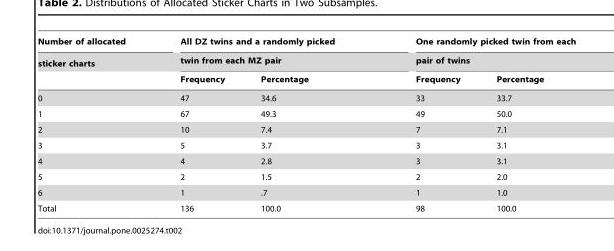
<table><thead><tr><td rowspan="3">Number of allocated sticker charts</td><td rowspan="2" colspan="2">All DZ twins and a randomly picked twin from each MZ pair</td><td rowspan="2" colspan="2">One randomly picked twin from each pair of twins</td></tr><tr></tr><tr><td>Frequency</td><td>Percentage</td><td>Frequency</td><td>Percentage</td></tr></thead><tbody><tr><td>0</td><td>47</td><td>34.6</td><td>33</td><td>33.7</td></tr><tr><td>1</td><td>67</td><td>49.3</td><td>49</td><td>50.0</td></tr><tr><td>2</td><td>10</td><td>7.4</td><td>7</td><td>7.1</td></tr><tr><td>3</td><td>5</td><td>3.7</td><td>3</td><td>3.1</td></tr><tr><td>4</td><td>4</td><td>2.8</td><td>3</td><td>3.1</td></tr><tr><td>5</td><td>2</td><td>1.5</td><td>2</td><td>2.0</td></tr><tr><td>6</td><td>1</td><td>.7</td><td>1</td><td>1.0</td></tr><tr><td>Total</td><td>136</td><td>100.0</td><td>98</td><td>100.0</td></tr></tbody></table>